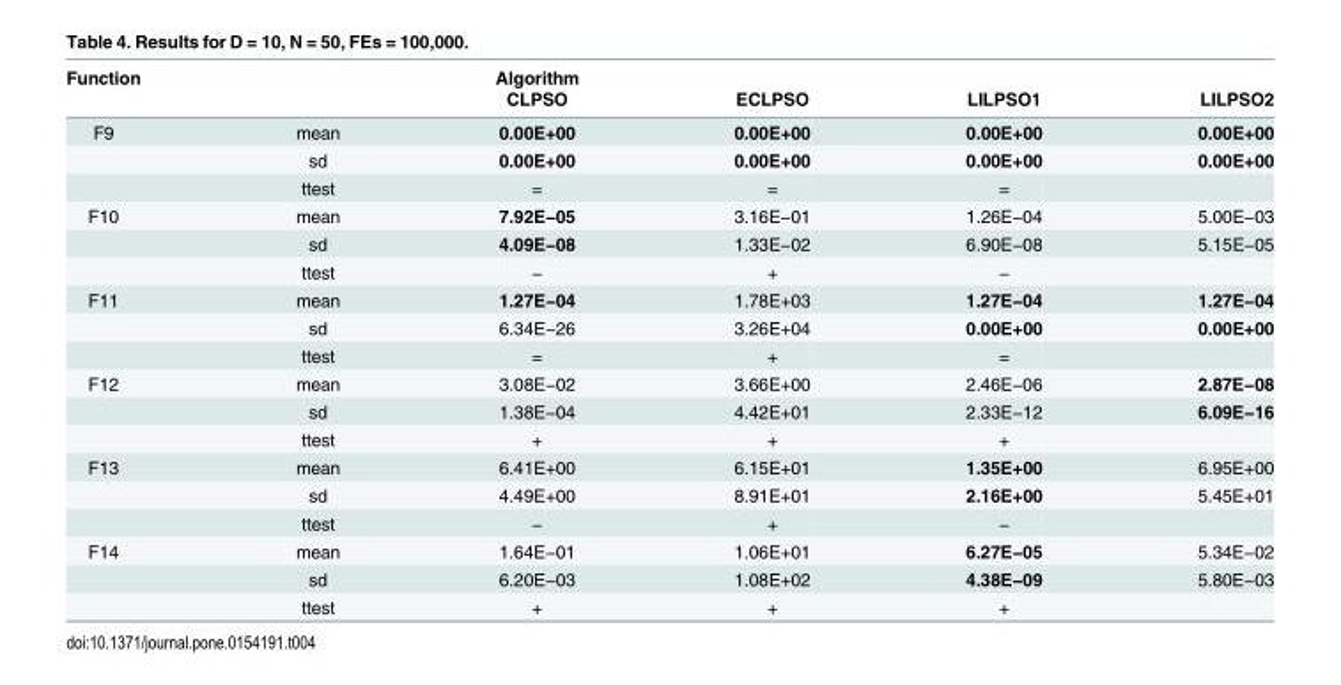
<table><thead><tr><td rowspan="2">Function</td><td rowspan="2"></td><td rowspan="2">Algorithm CLPSO</td><td rowspan="2">ECLPSO</td><td rowspan="2">LILPSO1</td><td rowspan="2">LILPSO2</td></tr><tr></tr></thead><tbody><tr><td rowspan="3">F9</td><td>mean</td><td>0.00E+00</td><td>0.00E+00</td><td>0.00E+00</td><td>0.00E+00</td></tr><tr><td>sd</td><td>0.00E+00</td><td>0.00E+00</td><td>0.00E+00</td><td>0.00E+00</td></tr><tr><td>ttest</td><td>=</td><td>=</td><td>=</td><td></td></tr><tr><td rowspan="3">F10</td><td>mean</td><td>7.92E−05</td><td>3.16E−01</td><td>1.26E−04</td><td>5.00E−03</td></tr><tr><td>sd</td><td>4.09E−08</td><td>1.33E−02</td><td>6.90E−08</td><td>5.15E−05</td></tr><tr><td>ttest</td><td>−</td><td>+</td><td>−</td><td></td></tr><tr><td rowspan="3">F11</td><td>mean</td><td>1.27E−04</td><td>1.78E+03</td><td>1.27E−04</td><td>1.27E−04</td></tr><tr><td>sd</td><td>6.34E−26</td><td>3.26E+04</td><td>0.00E+00</td><td>0.00E+00</td></tr><tr><td>ttest</td><td>=</td><td>+</td><td>=</td><td></td></tr><tr><td rowspan="3">F12</td><td>mean</td><td>3.08E−02</td><td>3.66E+00</td><td>2.46E−06</td><td>2.87E−08</td></tr><tr><td>sd</td><td>1.38E−04</td><td>4.42E+01</td><td>2.33E−12</td><td>6.09E−16</td></tr><tr><td>ttest</td><td>+</td><td>+</td><td>+</td><td></td></tr><tr><td rowspan="3">F13</td><td>mean</td><td>6.41E+00</td><td>6.15E+01</td><td>1.35E+00</td><td>6.95E+00</td></tr><tr><td>sd</td><td>4.49E+00</td><td>8.91E+01</td><td>2.16E+00</td><td>5.45E+01</td></tr><tr><td>ttest</td><td>−</td><td>+</td><td>−</td><td></td></tr><tr><td rowspan="3">F14</td><td>mean</td><td>1.64E−01</td><td>1.06E+01</td><td>6.27E−05</td><td>5.34E−02</td></tr><tr><td>sd</td><td>6.20E−03</td><td>1.08E+02</td><td>4.38E−09</td><td>5.80E−03</td></tr><tr><td>ttest</td><td>+</td><td>+</td><td>+</td><td></td></tr></tbody></table>